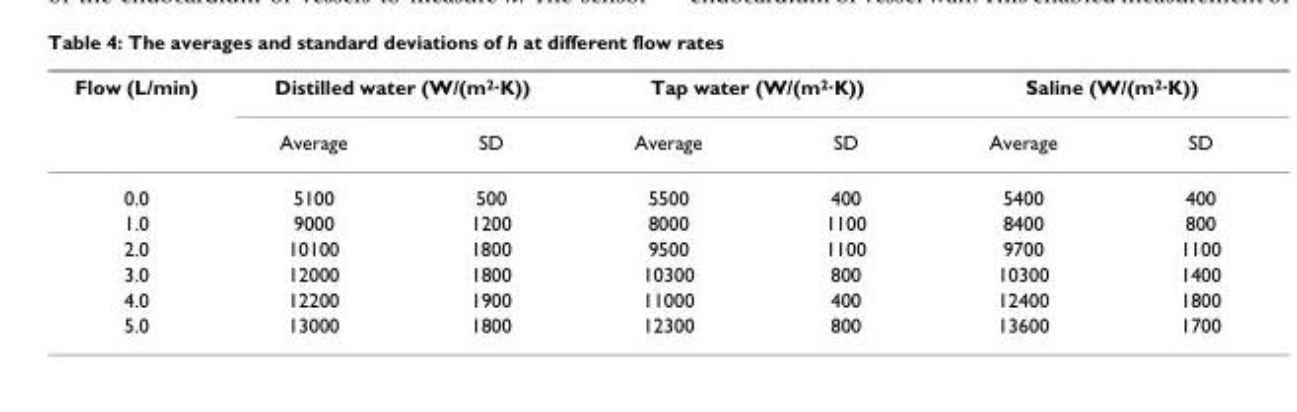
<table><thead><tr><td rowspan="2">Flow (L/min)</td><td colspan="2">Distilled water (W/(m<sup>2</sup>·K))</td><td colspan="2">Tap water (W/(m<sup>2</sup>·K))</td><td colspan="2">Saline (W/(m<sup>2</sup>·K))</td></tr><tr><td>Average</td><td>SD</td><td>Average</td><td>SD</td><td>Average</td><td>SD</td></tr></thead><tbody><tr><td>0.0</td><td>5100</td><td>500</td><td>5500</td><td>400</td><td>5400</td><td>400</td></tr><tr><td>1.0</td><td>9000</td><td>1200</td><td>8000</td><td>1100</td><td>8400</td><td>800</td></tr><tr><td>2.0</td><td>10100</td><td>1800</td><td>9500</td><td>1100</td><td>9700</td><td>1100</td></tr><tr><td>3.0</td><td>12000</td><td>1800</td><td>10300</td><td>800</td><td>10300</td><td>1400</td></tr><tr><td>4.0</td><td>12200</td><td>1900</td><td>11000</td><td>400</td><td>12400</td><td>1800</td></tr><tr><td>5.0</td><td>13000</td><td>1800</td><td>12300</td><td>800</td><td>13600</td><td>1700</td></tr></tbody></table>